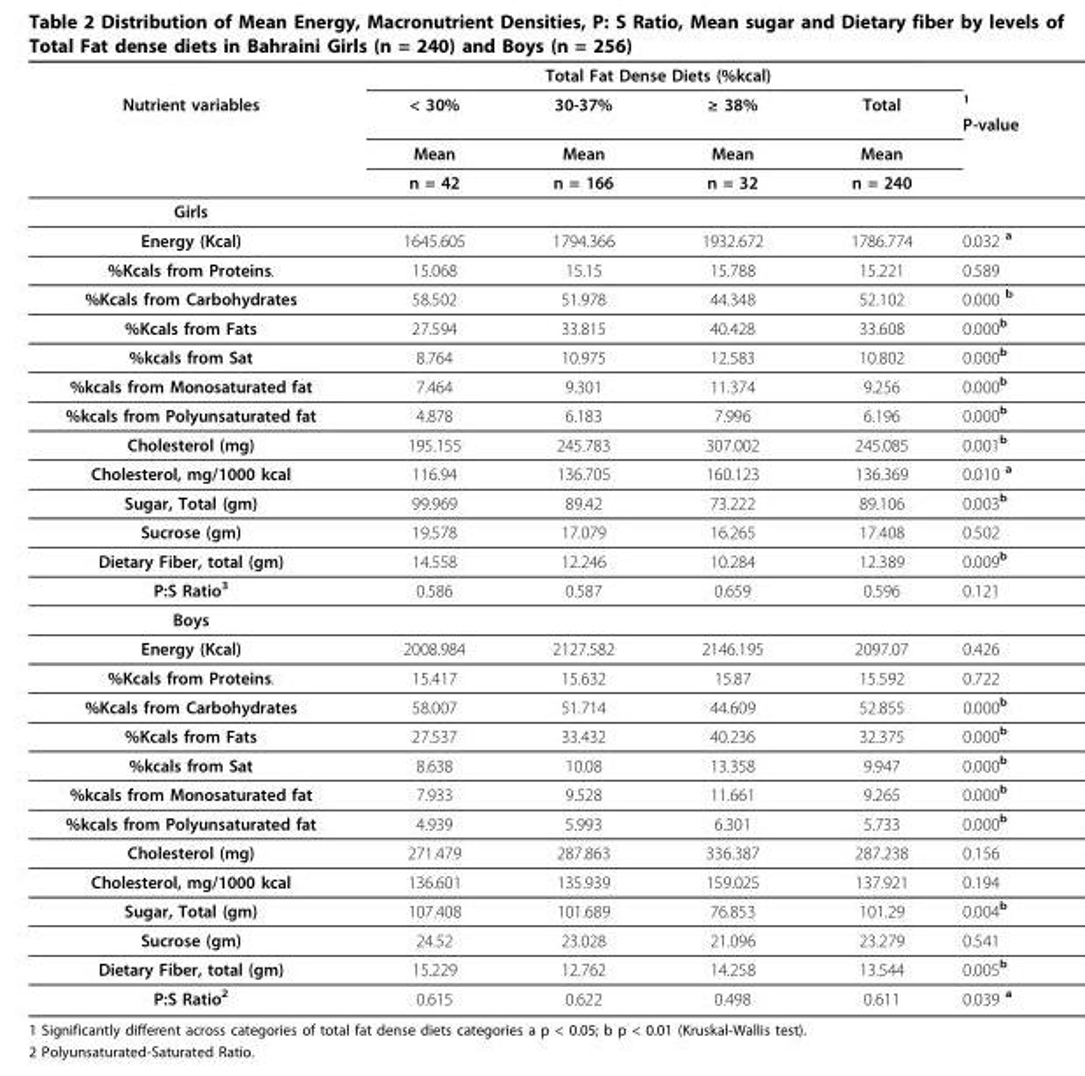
<table><thead><tr><td rowspan="4">Nutrient variables</td><td colspan="4">Total Fat Dense Diets (%kcal)</td><td rowspan="4">1 P-value</td></tr><tr><td rowspan="3">&lt; 30% Mean n = 42</td><td rowspan="3">30-37% Mean n = 166</td><td rowspan="3">≥ 38% Mean n = 32</td><td rowspan="3">Total Mean n = 240</td></tr><tr></tr><tr></tr></thead><tbody><tr><td colspan="6">Girls</td></tr><tr><td>Energy (Kcal)</td><td>1645.605</td><td>1794.366</td><td>1932.672</td><td>1786.774</td><td>0.032 <sup>a</sup></td></tr><tr><td>%Kcals from Proteins.</td><td>15.068</td><td>15.15</td><td>15.788</td><td>15.221</td><td>0.589</td></tr><tr><td>%Kcals from Carbohydrates</td><td>58.502</td><td>51.978</td><td>44.348</td><td>52.102</td><td>0.000 <sup>b</sup></td></tr><tr><td>%Kcals from Fats</td><td>27.594</td><td>33.815</td><td>40.428</td><td>33.608</td><td>0.000<sup>b</sup></td></tr><tr><td>%kcals from Sat</td><td>8.764</td><td>10.975</td><td>12.583</td><td>10.802</td><td>0.000<sup>b</sup></td></tr><tr><td>%kcals from Monosaturated fat</td><td>7.464</td><td>9.301</td><td>11.374</td><td>9.256</td><td>0.000<sup>b</sup></td></tr><tr><td>%kcals from Polyunsaturated fat</td><td>4.878</td><td>6.183</td><td>7.996</td><td>6.196</td><td>0.000<sup>b</sup></td></tr><tr><td>Cholesterol (mg)</td><td>195.155</td><td>245.783</td><td>307.002</td><td>245.085</td><td>0.001<sup>b</sup></td></tr><tr><td>Cholesterol, mg/1000 kcal</td><td>116.94</td><td>136.705</td><td>160.123</td><td>136.369</td><td>0.010 <sup>a</sup></td></tr><tr><td>Sugar, Total (gm)</td><td>99.969</td><td>89.42</td><td>73.222</td><td>89.106</td><td>0.003<sup>b</sup></td></tr><tr><td>Sucrose (gm)</td><td>19.578</td><td>17.079</td><td>16.265</td><td>17.408</td><td>0.502</td></tr><tr><td>Dietary Fiber, total (gm)</td><td>14.558</td><td>12.246</td><td>10.284</td><td>12.389</td><td>0.009<sup>b</sup></td></tr><tr><td>P:S Ratio<sup>3</sup></td><td>0.586</td><td>0.587</td><td>0.659</td><td>0.596</td><td>0.121</td></tr><tr><td colspan="6">Boys</td></tr><tr><td>Energy (Kcal)</td><td>2008.984</td><td>2127.582</td><td>2146.195</td><td>2097.07</td><td>0.426</td></tr><tr><td>%Kcals from Proteins.</td><td>15.417</td><td>15.632</td><td>15.87</td><td>15.592</td><td>0.722</td></tr><tr><td>%Kcals from Carbohydrates</td><td>58.007</td><td>51.714</td><td>44.609</td><td>52.855</td><td>0.000<sup>b</sup></td></tr><tr><td>%Kcals from Fats</td><td>27.537</td><td>33.432</td><td>40.236</td><td>32.375</td><td>0.000<sup>b</sup></td></tr><tr><td>%kcals from Sat</td><td>8.638</td><td>10.08</td><td>13.358</td><td>9.947</td><td>0.000<sup>b</sup></td></tr><tr><td>%kcals from Monosaturated fat</td><td>7.933</td><td>9.528</td><td>11.661</td><td>9.265</td><td>0.000<sup>b</sup></td></tr><tr><td>%kcals from Polyunsaturated fat</td><td>4.939</td><td>5.993</td><td>6.301</td><td>5.733</td><td>0.000<sup>b</sup></td></tr><tr><td>Cholesterol (mg)</td><td>271.479</td><td>287.863</td><td>336.387</td><td>287.238</td><td>0.156</td></tr><tr><td>Cholesterol, mg/1000 kcal</td><td>136.601</td><td>135.939</td><td>159.025</td><td>137.921</td><td>0.194</td></tr><tr><td>Sugar, Total (gm)</td><td>107.408</td><td>101.689</td><td>76.853</td><td>101.29</td><td>0.004<sup>b</sup></td></tr><tr><td>Sucrose (gm)</td><td>24.52</td><td>23.028</td><td>21.096</td><td>23.279</td><td>0.541</td></tr><tr><td>Dietary Fiber, total (gm)</td><td>15.229</td><td>12.762</td><td>14.258</td><td>13.544</td><td>0.005<sup>b</sup></td></tr><tr><td>P:S Ratio<sup>2</sup></td><td>0.615</td><td>0.622</td><td>0.498</td><td>0.611</td><td>0.039 <sup>a</sup></td></tr></tbody></table>